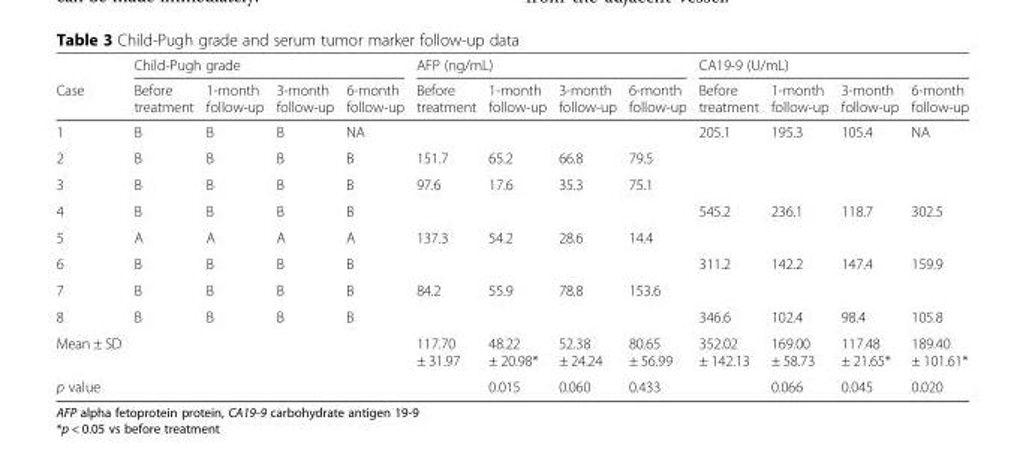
<table><thead><tr><td rowspan="2">Case</td><td colspan="4">Child-Pugh grade</td><td colspan="4">AFP (ng/mL)</td><td colspan="4">CA19-9 (U/mL)</td></tr><tr><td>Before treatment</td><td>1-month follow-up</td><td>3-month follow-up</td><td>6-month follow-up</td><td>Before treatment</td><td>1-month follow-up</td><td>3-month follow-up</td><td>6-month follow-up</td><td>Before treatment</td><td>1-month follow-up</td><td>3-month follow-up</td><td>6-month follow-up</td></tr></thead><tbody><tr><td>1</td><td>B</td><td>B</td><td>B</td><td>NA</td><td></td><td></td><td></td><td></td><td>205.1</td><td>195.3</td><td>105.4</td><td>NA</td></tr><tr><td>2</td><td>B</td><td>B</td><td>B</td><td>B</td><td>151.7</td><td>65.2</td><td>66.8</td><td>79.5</td><td></td><td></td><td></td><td></td></tr><tr><td>3</td><td>B</td><td>B</td><td>B</td><td>B</td><td>97.6</td><td>17.6</td><td>35.3</td><td>75.1</td><td></td><td></td><td></td><td></td></tr><tr><td>4</td><td>B</td><td>B</td><td>B</td><td>B</td><td></td><td></td><td></td><td></td><td>545.2</td><td>236.1</td><td>118.7</td><td>302.5</td></tr><tr><td>5</td><td>A</td><td>A</td><td>A</td><td>A</td><td>137.3</td><td>54.2</td><td>28.6</td><td>14.4</td><td></td><td></td><td></td><td></td></tr><tr><td>6</td><td>B</td><td>B</td><td>B</td><td>B</td><td></td><td></td><td></td><td></td><td>311.2</td><td>142.2</td><td>147.4</td><td>159.9</td></tr><tr><td>7</td><td>B</td><td>B</td><td>B</td><td>B</td><td>84.2</td><td>55.9</td><td>78.8</td><td>153.6</td><td></td><td></td><td></td><td></td></tr><tr><td>8</td><td>B</td><td>B</td><td>B</td><td>B</td><td></td><td></td><td></td><td></td><td>346.6</td><td>102.4</td><td>98.4</td><td>105.8</td></tr><tr><td>Mean ± SD</td><td></td><td></td><td></td><td></td><td>117.70 ± 31.97</td><td>48.22 ± 20.98*</td><td>52.38 ± 24.24</td><td>80.65 ± 56.99</td><td>352.02 ± 142.13</td><td>169.00 ± 58.73</td><td>117.48 ± 21.65*</td><td>189.40 ± 101.61*</td></tr><tr><td>p value</td><td></td><td></td><td></td><td></td><td></td><td>0.015</td><td>0.060</td><td>0.433</td><td></td><td>0.066</td><td>0.045</td><td>0.020</td></tr></tbody></table>